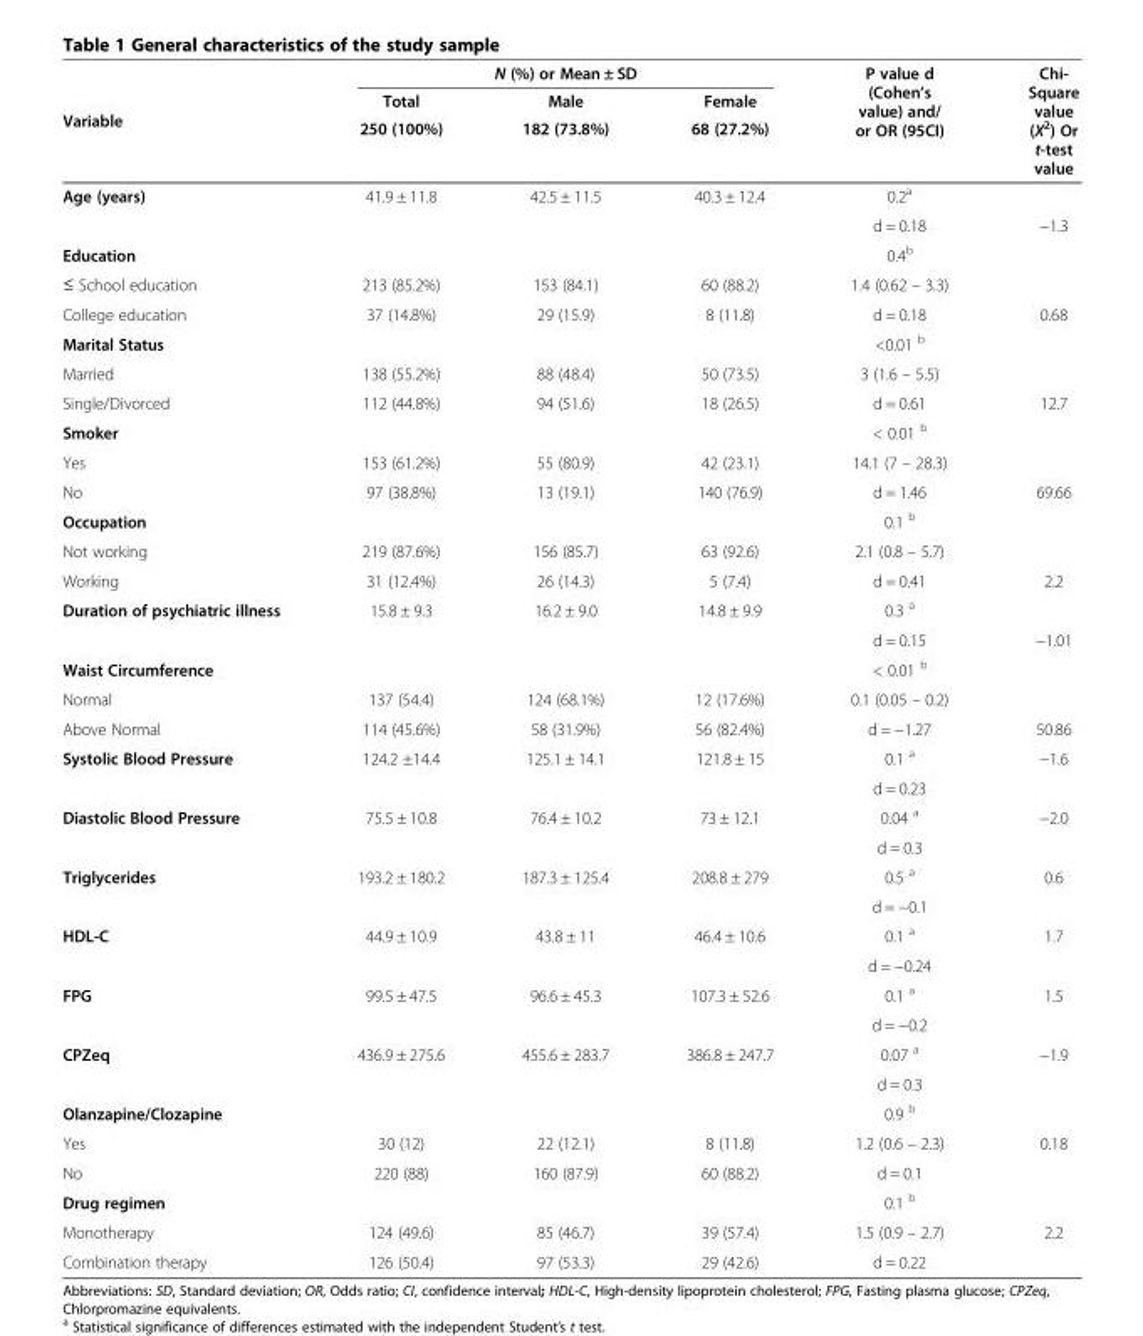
<table><thead><tr><td rowspan="3">Variable</td><td colspan="3">N (%) or Mean ± SD</td><td rowspan="3">P value d (Cohen’s value) and/ or OR (95CI)</td><td rowspan="3">Chi- Square value (X<sup>2</sup>) Or t-test value</td></tr><tr><td rowspan="2">Total 250 (100%)</td><td rowspan="2">Male 182 (73.8%)</td><td rowspan="2">Female 68 (27.2%)</td></tr><tr></tr></thead><tbody><tr><td rowspan="2">Age (years)</td><td rowspan="2">41.9 ± 11.8</td><td rowspan="2">42.5 ± 11.5</td><td rowspan="2">40.3 ± 12.4</td><td>0.2<sup>a</sup></td><td></td></tr><tr><td>d = 0.18</td><td>−1.3</td></tr><tr><td>Education</td><td></td><td></td><td></td><td>0.4<sup>b</sup></td><td></td></tr><tr><td>≤ School education</td><td>213 (85.2%)</td><td>153 (84.1)</td><td>60 (88.2)</td><td>1.4 (0.62 – 3.3)</td><td></td></tr><tr><td>College education</td><td>37 (14.8%)</td><td>29 (15.9)</td><td>8 (11.8)</td><td>d = 0.18</td><td>0.68</td></tr><tr><td>Marital Status</td><td></td><td></td><td></td><td>&lt;0.01 <sup>b</sup></td><td></td></tr><tr><td>Married</td><td>138 (55.2%)</td><td>88 (48.4)</td><td>50 (73.5)</td><td>3 (1.6 – 5.5)</td><td></td></tr><tr><td>Single/Divorced</td><td>112 (44.8%)</td><td>94 (51.6)</td><td>18 (26.5)</td><td>d = 0.61</td><td>12.7</td></tr><tr><td>Smoker</td><td></td><td></td><td></td><td>&lt; 0.01 <sup>b</sup></td><td></td></tr><tr><td>Yes</td><td>153 (61.2%)</td><td>55 (80.9)</td><td>42 (23.1)</td><td>14.1 (7 – 28.3)</td><td></td></tr><tr><td>No</td><td>97 (38.8%)</td><td>13 (19.1)</td><td>140 (76.9)</td><td>d = 1.46</td><td>69.66</td></tr><tr><td>Occupation</td><td></td><td></td><td></td><td>0.1 <sup>b</sup></td><td></td></tr><tr><td>Not working</td><td>219 (87.6%)</td><td>156 (85.7)</td><td>63 (92.6)</td><td>2.1 (0.8 – 5.7)</td><td></td></tr><tr><td>Working</td><td>31 (12.4%)</td><td>26 (14.3)</td><td>5 (7.4)</td><td>d = 0.41</td><td>2.2</td></tr><tr><td rowspan="2">Duration of psychiatric illness</td><td rowspan="2">15.8 ± 9.3</td><td rowspan="2">16.2 ± 9.0</td><td rowspan="2">14.8 ± 9.9</td><td>0.3 <sup>a</sup></td><td></td></tr><tr><td>d = 0.15</td><td>−1.01</td></tr><tr><td>Waist Circumference</td><td></td><td></td><td></td><td>&lt; 0.01 <sup>b</sup></td><td></td></tr><tr><td>Normal</td><td>137 (54.4)</td><td>124 (68.1%)</td><td>12 (17.6%)</td><td>0.1 (0.05 – 0.2)</td><td></td></tr><tr><td>Above Normal</td><td>114 (45.6%)</td><td>58 (31.9%)</td><td>56 (82.4%)</td><td>d = −1.27</td><td>50.86</td></tr><tr><td rowspan="2">Systolic Blood Pressure</td><td rowspan="2">124.2 ±14.4</td><td rowspan="2">125.1 ± 14.1</td><td rowspan="2">121.8 ± 15</td><td>0.1 <sup>a</sup></td><td rowspan="2">−1.6</td></tr><tr><td>d = 0.23</td></tr><tr><td rowspan="2">Diastolic Blood Pressure</td><td rowspan="2">75.5 ± 10.8</td><td rowspan="2">76.4 ± 10.2</td><td rowspan="2">73 ± 12.1</td><td>0.04 <sup>a</sup></td><td rowspan="2">−2.0</td></tr><tr><td>d = 0.3</td></tr><tr><td rowspan="2">Triglycerides</td><td rowspan="2">193.2 ± 180.2</td><td rowspan="2">187.3 ± 125.4</td><td rowspan="2">208.8 ± 279</td><td>0.5 <sup>a</sup></td><td rowspan="2">0.6</td></tr><tr><td>d = −0.1</td></tr><tr><td rowspan="2">HDL-C</td><td rowspan="2">44.9 ± 10.9</td><td rowspan="2">43.8 ± 11</td><td rowspan="2">46.4 ± 10.6</td><td>0.1 <sup>a</sup></td><td rowspan="2">1.7</td></tr><tr><td>d = −0.24</td></tr><tr><td rowspan="2">FPG</td><td rowspan="2">99.5 ± 47.5</td><td rowspan="2">96.6 ± 45.3</td><td rowspan="2">107.3 ± 52.6</td><td>0.1 <sup>a</sup></td><td rowspan="2">1.5</td></tr><tr><td>d = −0.2</td></tr><tr><td rowspan="2">CPZeq</td><td rowspan="2">436.9 ± 275.6</td><td rowspan="2">455.6 ± 283.7</td><td rowspan="2">386.8 ± 247.7</td><td>0.07 <sup>a</sup></td><td rowspan="2">−1.9</td></tr><tr><td>d = 0.3</td></tr><tr><td>Olanzapine/Clozapine</td><td></td><td></td><td></td><td>0.9 <sup>b</sup></td><td></td></tr><tr><td>Yes</td><td>30 (12)</td><td>22 (12.1)</td><td>8 (11.8)</td><td>1.2 (0.6 – 2.3)</td><td rowspan="2">0.18</td></tr><tr><td>No</td><td>220 (88)</td><td>160 (87.9)</td><td>60 (88.2)</td><td>d = 0.1</td></tr><tr><td>Drug regimen</td><td></td><td></td><td></td><td>0.1 <sup>b</sup></td><td></td></tr><tr><td>Monotherapy</td><td>124 (49.6)</td><td>85 (46.7)</td><td>39 (57.4)</td><td>1.5 (0.9 – 2.7)</td><td>2.2</td></tr><tr><td>Combination therapy</td><td>126 (50.4)</td><td>97 (53.3)</td><td>29 (42.6)</td><td>d = 0.22</td><td></td></tr></tbody></table>